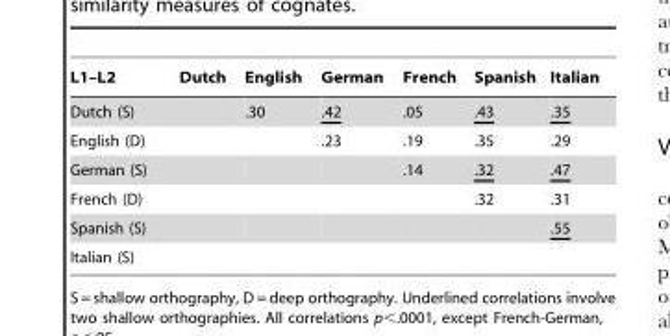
<table><thead><tr><td>L1–L2</td><td>Dutch</td><td>English</td><td>German</td><td>French</td><td>Spanish</td><td>Italian</td></tr></thead><tbody><tr><td>Dutch (S)</td><td></td><td>.30</td><td>.42</td><td>.05</td><td>.43</td><td>.35</td></tr><tr><td>English (D)</td><td></td><td></td><td>.23</td><td>.19</td><td>.35</td><td>.29</td></tr><tr><td>German (S)</td><td></td><td></td><td></td><td>.14</td><td>.32</td><td>.47</td></tr><tr><td>French (D)</td><td></td><td></td><td></td><td></td><td>.32</td><td>.31</td></tr><tr><td>Spanish (S)</td><td></td><td></td><td></td><td></td><td></td><td>.55</td></tr><tr><td>Italian (S)</td><td></td><td></td><td></td><td></td><td></td><td></td></tr></tbody></table>